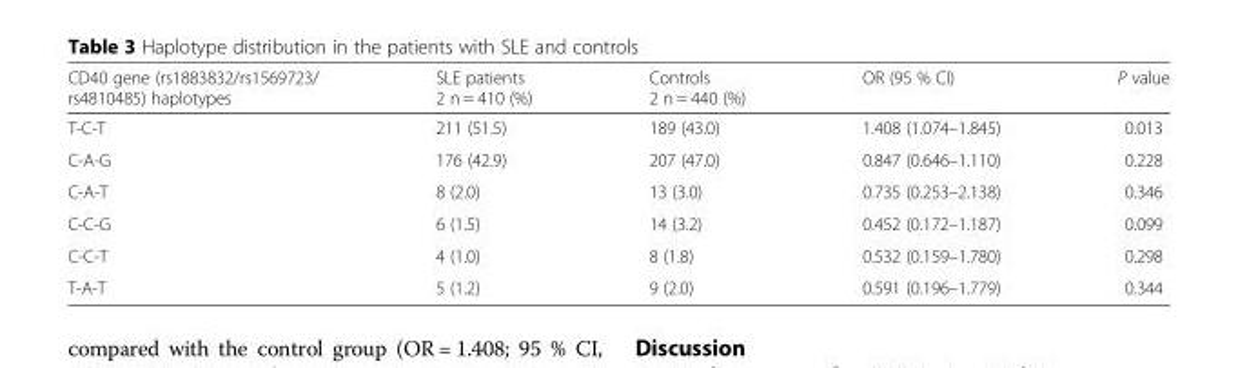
<table><thead><tr><td>CD40 gene (rs1883832/rs1569723/ rs4810485) haplotypes</td><td>SLE patients 2 n = 410 (%)</td><td>Controls 2 n = 440 (%)</td><td>OR (95 % CI)</td><td>P value</td></tr></thead><tbody><tr><td>T-C-T</td><td>211 (51.5)</td><td>189 (43.0)</td><td>1.408 (1.074–1.845)</td><td>0.013</td></tr><tr><td>C-A-G</td><td>176 (42.9)</td><td>207 (47.0)</td><td>0.847 (0.646–1.110)</td><td>0.228</td></tr><tr><td>C-A-T</td><td>8 (2.0)</td><td>13 (3.0)</td><td>0.735 (0.253–2.138)</td><td>0.346</td></tr><tr><td>C-C-G</td><td>6 (1.5)</td><td>14 (3.2)</td><td>0.452 (0.172–1.187)</td><td>0.099</td></tr><tr><td>C-C-T</td><td>4 (1.0)</td><td>8 (1.8)</td><td>0.532 (0.159–1.780)</td><td>0.298</td></tr><tr><td>T-A-T</td><td>5 (1.2)</td><td>9 (2.0)</td><td>0.591 (0.196–1.779)</td><td>0.344</td></tr></tbody></table>